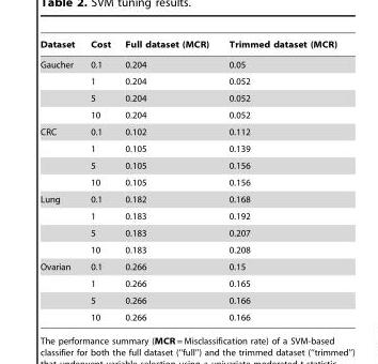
<table><thead><tr><td>Dataset</td><td>Cost</td><td>Full dataset (MCR)</td><td>Trimmed dataset (MCR)</td></tr></thead><tbody><tr><td rowspan="4">Gaucher</td><td>0.1</td><td>0.204</td><td>0.05</td></tr><tr><td>1</td><td>0.204</td><td>0.052</td></tr><tr><td>5</td><td>0.204</td><td>0.052</td></tr><tr><td>10</td><td>0.204</td><td>0.052</td></tr><tr><td rowspan="4">CRC</td><td>0.1</td><td>0.102</td><td>0.112</td></tr><tr><td>1</td><td>0.105</td><td>0.139</td></tr><tr><td>5</td><td>0.105</td><td>0.156</td></tr><tr><td>10</td><td>0.105</td><td>0.156</td></tr><tr><td rowspan="4">Lung</td><td>0.1</td><td>0.182</td><td>0.168</td></tr><tr><td>1</td><td>0.183</td><td>0.192</td></tr><tr><td>5</td><td>0.183</td><td>0.207</td></tr><tr><td>10</td><td>0.183</td><td>0.208</td></tr><tr><td rowspan="4">Ovarian</td><td>0.1</td><td>0.266</td><td>0.15</td></tr><tr><td>1</td><td>0.266</td><td>0.165</td></tr><tr><td>5</td><td>0.266</td><td>0.166</td></tr><tr><td>10</td><td>0.266</td><td>0.166</td></tr></tbody></table>